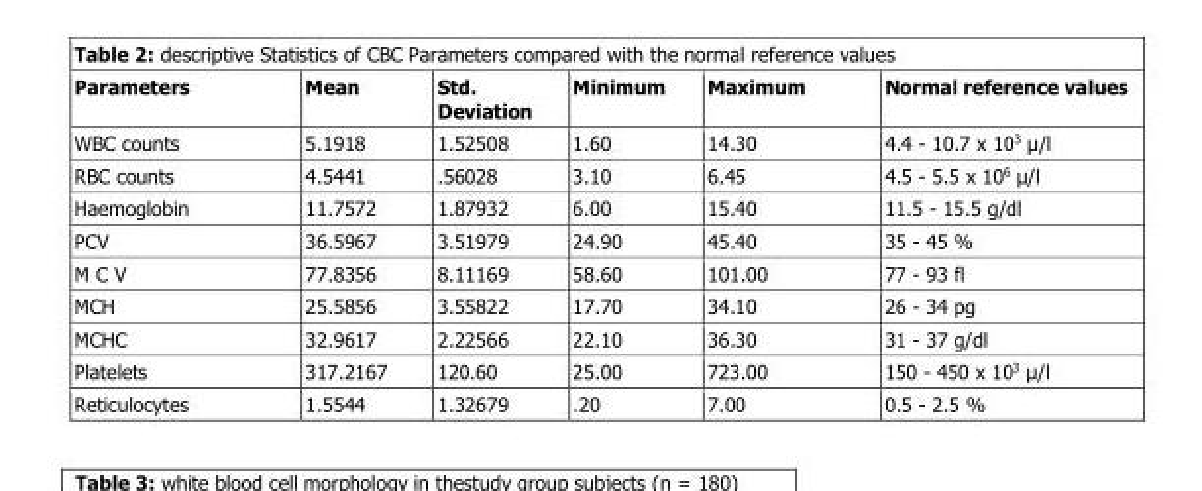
<table><thead><tr><td>Parameters</td><td>Mean</td><td>Std. Deviation</td><td>Minimum</td><td>Maximum</td><td>Normal reference values</td></tr></thead><tbody><tr><td>WBC counts</td><td>5.1918</td><td>1.52508</td><td>1.60</td><td>14.30</td><td>4.4 - 10.7 x 10<sup>3</sup> μ/l</td></tr><tr><td>RBC counts</td><td>4.5441</td><td>.56028</td><td>3.10</td><td>6.45</td><td>4.5 - 5.5 x 10<sup>6</sup> μ/l</td></tr><tr><td>Haemoglobin</td><td>11.7572</td><td>1.87932</td><td>6.00</td><td>15.40</td><td>11.5 - 15.5 g/dl</td></tr><tr><td>PCV</td><td>36.5967</td><td>3.51979</td><td>24.90</td><td>45.40</td><td>35 - 45 %</td></tr><tr><td>M C V</td><td>77.8356</td><td>8.11169</td><td>58.60</td><td>101.00</td><td>77 - 93 fl</td></tr><tr><td>MCH</td><td>25.5856</td><td>3.55822</td><td>17.70</td><td>34.10</td><td>26 - 34 pg</td></tr><tr><td>MCHC</td><td>32.9617</td><td>2.22566</td><td>22.10</td><td>36.30</td><td>31 - 37 g/dl</td></tr><tr><td>Platelets</td><td>317.2167</td><td>120.60</td><td>25.00</td><td>723.00</td><td>150 - 450 x 10<sup>3</sup> μ/l</td></tr><tr><td>Reticulocytes</td><td>1.5544</td><td>1.32679</td><td>.20</td><td>7.00</td><td>0.5 - 2.5 %</td></tr></tbody></table>